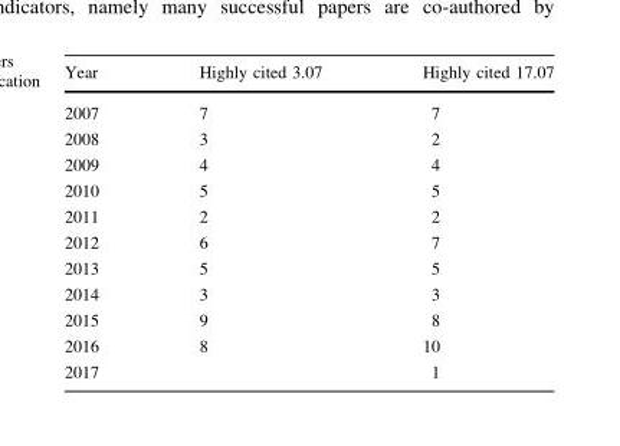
<table><thead><tr><td>Year</td><td>Highly cited 3.07</td><td>Highly cited 17.07</td></tr></thead><tbody><tr><td>2007</td><td>7</td><td>7</td></tr><tr><td>2008</td><td>3</td><td>2</td></tr><tr><td>2009</td><td>4</td><td>4</td></tr><tr><td>2010</td><td>5</td><td>5</td></tr><tr><td>2011</td><td>2</td><td>2</td></tr><tr><td>2012</td><td>6</td><td>7</td></tr><tr><td>2013</td><td>5</td><td>5</td></tr><tr><td>2014</td><td>3</td><td>3</td></tr><tr><td>2015</td><td>9</td><td>8</td></tr><tr><td>2016</td><td>8</td><td>10</td></tr><tr><td>2017</td><td></td><td>1</td></tr></tbody></table>